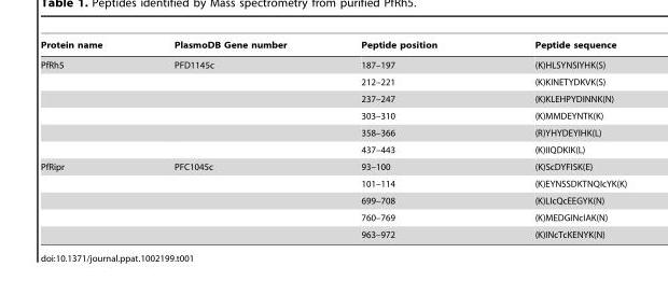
<table><thead><tr><td>Protein name</td><td>PlasmoDB Gene number</td><td>Peptide position</td><td>Peptide sequence</td></tr></thead><tbody><tr><td rowspan="6">PfRh5</td><td>PFD1145c</td><td>187–197</td><td>(K)HLSYNSIYHK(S)</td></tr><tr><td></td><td>212–221</td><td>(K)KINETYDKVK(S)</td></tr><tr><td></td><td>237–247</td><td>(K)KLEHPYDINNK(N)</td></tr><tr><td></td><td>303–310</td><td>(K)MMDEYNTK(K)</td></tr><tr><td></td><td>358–366</td><td>(R)YHYDEYIHK(L)</td></tr><tr><td></td><td>437–443</td><td>(K)IIQDKIK(L)</td></tr><tr><td rowspan="5">PfRipr</td><td>PFC1045c</td><td>93–100</td><td>(K)ScDYFISK(E)</td></tr><tr><td></td><td>101–114</td><td>(K)EYNSSDKTNQIcYK(K)</td></tr><tr><td></td><td>699–708</td><td>(K)LIcQcEEGYK(N)</td></tr><tr><td></td><td>760–769</td><td>(K)MEDGINcIAK(N)</td></tr><tr><td></td><td>963–972</td><td>(K)INcTcKENYK(N)</td></tr></tbody></table>